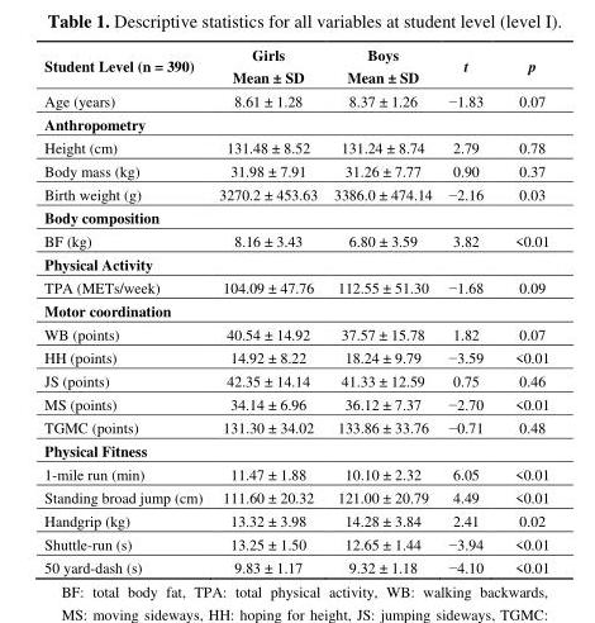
<table><thead><tr><td>Student Level (n = 390)</td><td>Girls Mean ± SD</td><td>Boys Mean ± SD</td><td>t</td><td>p</td></tr></thead><tbody><tr><td>Age (years)</td><td>8.61 ± 1.28</td><td>8.37 ± 1.26</td><td>−1.83</td><td>0.07</td></tr><tr><td colspan="5">Anthropometry</td></tr><tr><td>Height (cm)</td><td>131.48 ± 8.52</td><td>131.24 ± 8.74</td><td>2.79</td><td>0.78</td></tr><tr><td>Body mass (kg)</td><td>31.98 ± 7.91</td><td>31.26 ± 7.77</td><td>0.90</td><td>0.37</td></tr><tr><td>Birth weight (g)</td><td>3270.2 ± 453.63</td><td>3386.0 ± 474.14</td><td>−2.16</td><td>0.03</td></tr><tr><td colspan="5">Body composition</td></tr><tr><td>BF (kg)</td><td>8.16 ± 3.43</td><td>6.80 ± 3.59</td><td>3.82</td><td>&lt;0.01</td></tr><tr><td colspan="5">Physical Activity</td></tr><tr><td>TPA (METs/week)</td><td>104.09 ± 47.76</td><td>112.55 ± 51.30</td><td>−1.68</td><td>0.09</td></tr><tr><td colspan="5">Motor coordination</td></tr><tr><td>WB (points)</td><td>40.54 ± 14.92</td><td>37.57 ± 15.78</td><td>1.82</td><td>0.07</td></tr><tr><td>HH (points)</td><td>14.92 ± 8.22</td><td>18.24 ± 9.79</td><td>−3.59</td><td>&lt;0.01</td></tr><tr><td>JS (points)</td><td>42.35 ± 14.14</td><td>41.33 ± 12.59</td><td>0.75</td><td>0.46</td></tr><tr><td>MS (points)</td><td>34.14 ± 6.96</td><td>36.12 ± 7.37</td><td>−2.70</td><td>&lt;0.01</td></tr><tr><td>TGMC (points)</td><td>131.30 ± 34.02</td><td>133.86 ± 33.76</td><td>−0.71</td><td>0.48</td></tr><tr><td colspan="5">Physical Fitness</td></tr><tr><td>1-mile run (min)</td><td>11.47 ± 1.88</td><td>10.10 ± 2.32</td><td>6.05</td><td>&lt;0.01</td></tr><tr><td>Standing broad jump (cm)</td><td>111.60 ± 20.32</td><td>121.00 ± 20.79</td><td>4.49</td><td>&lt;0.01</td></tr><tr><td>Handgrip (kg)</td><td>13.32 ± 3.98</td><td>14.28 ± 3.84</td><td>2.41</td><td>0.02</td></tr><tr><td>Shuttle-run (s)</td><td>13.25 ± 1.50</td><td>12.65 ± 1.44</td><td>−3.94</td><td>&lt;0.01</td></tr><tr><td>50 yard-dash (s)</td><td>9.83 ± 1.17</td><td>9.32 ± 1.18</td><td>−4.10</td><td>&lt;0.01</td></tr></tbody></table>